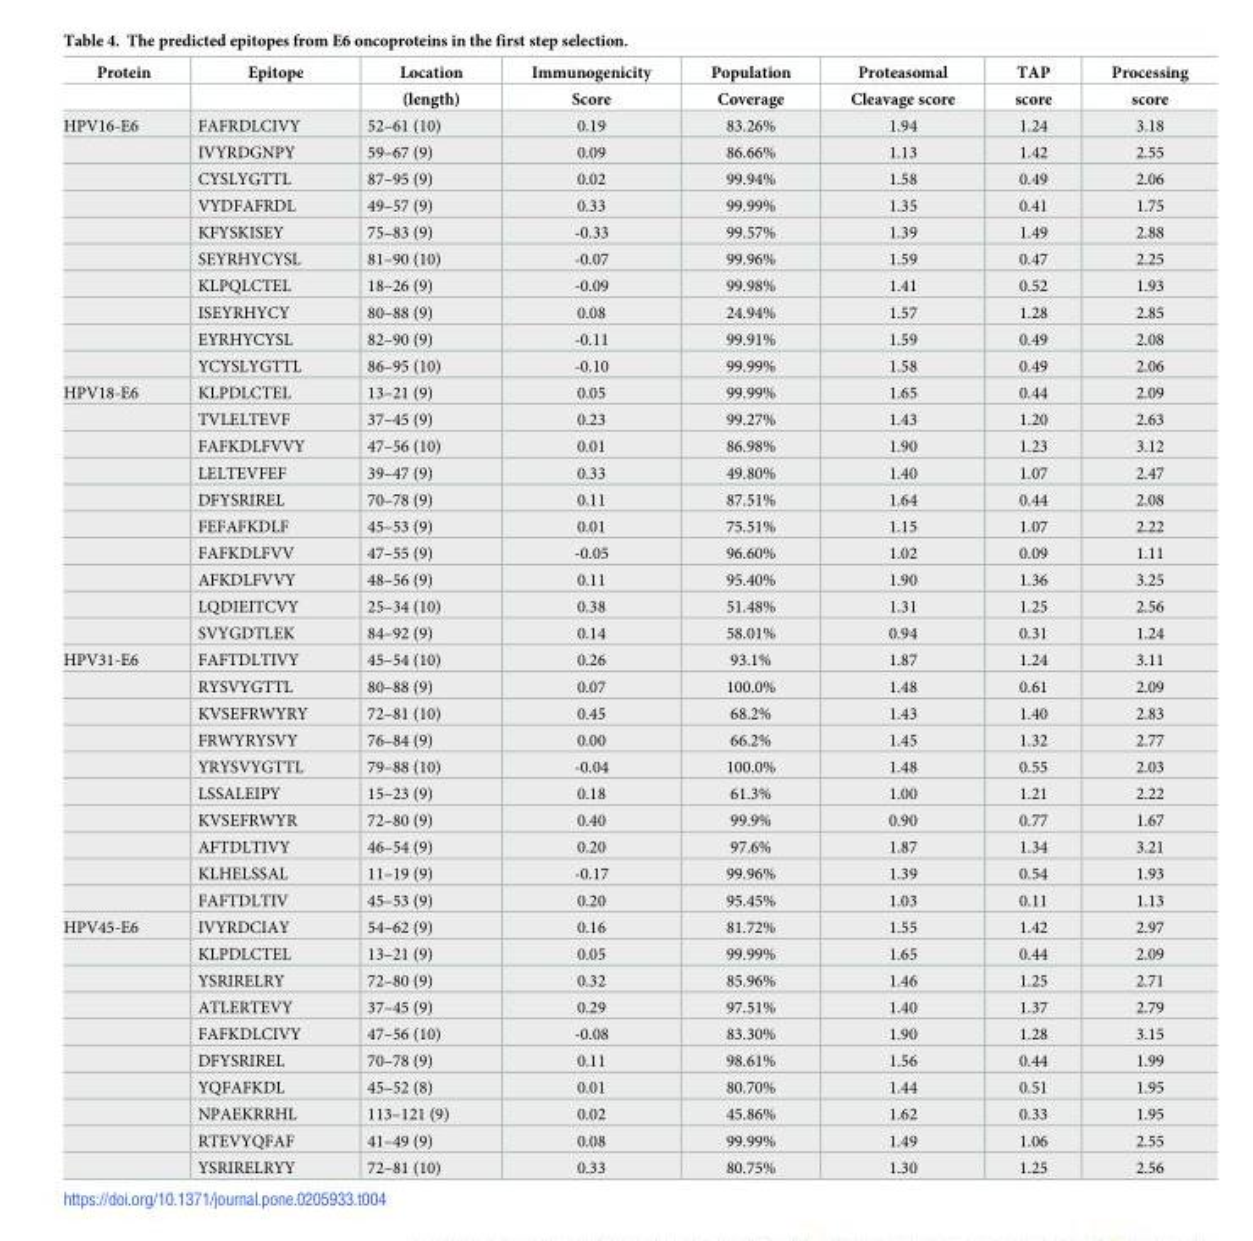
<table><thead><tr><td rowspan="2">Protein</td><td rowspan="2">Epitope</td><td rowspan="2">Location (length)</td><td rowspan="2">Immunogenicity Score</td><td rowspan="2">Population Coverage</td><td rowspan="2">Proteasomal Cleavage score</td><td rowspan="2">TAP score</td><td rowspan="2">Processing score</td></tr><tr></tr></thead><tbody><tr><td rowspan="10">HPV16-E6</td><td>FAFRDLCIVY</td><td>52–61 (10)</td><td>0.19</td><td>83.26%</td><td>1.94</td><td>1.24</td><td>3.18</td></tr><tr><td>IVYRDGNPY</td><td>59–67 (9)</td><td>0.09</td><td>86.66%</td><td>1.13</td><td>1.42</td><td>2.55</td></tr><tr><td>CYSLYGTTL</td><td>87–95 (9)</td><td>0.02</td><td>99.94%</td><td>1.58</td><td>0.49</td><td>2.06</td></tr><tr><td>VYDFAFRDL</td><td>49–57 (9)</td><td>0.33</td><td>99.99%</td><td>1.35</td><td>0.41</td><td>1.75</td></tr><tr><td>KFYSKISEY</td><td>75–83 (9)</td><td>-0.33</td><td>99.57%</td><td>1.39</td><td>1.49</td><td>2.88</td></tr><tr><td>SEYRHYCYSL</td><td>81–90 (10)</td><td>-0.07</td><td>99.96%</td><td>1.59</td><td>0.47</td><td>2.25</td></tr><tr><td>KLPQLCTEL</td><td>18–26 (9)</td><td>-0.09</td><td>99.98%</td><td>1.41</td><td>0.52</td><td>1.93</td></tr><tr><td>ISEYRHYCY</td><td>80–88 (9)</td><td>0.08</td><td>24.94%</td><td>1.57</td><td>1.28</td><td>2.85</td></tr><tr><td>EYRHYCYSL</td><td>82–90 (9)</td><td>-0.11</td><td>99.91%</td><td>1.59</td><td>0.49</td><td>2.08</td></tr><tr><td>YCYSLYGTTL</td><td>86–95 (10)</td><td>-0.10</td><td>99.99%</td><td>1.58</td><td>0.49</td><td>2.06</td></tr><tr><td rowspan="10">HPV18-E6</td><td>KLPDLCTEL</td><td>13–21 (9)</td><td>0.05</td><td>99.99%</td><td>1.65</td><td>0.44</td><td>2.09</td></tr><tr><td>TVLELTEVF</td><td>37–45 (9)</td><td>0.23</td><td>99.27%</td><td>1.43</td><td>1.20</td><td>2.63</td></tr><tr><td>FAFKDLFVVY</td><td>47–56 (10)</td><td>0.01</td><td>86.98%</td><td>1.90</td><td>1.23</td><td>3.12</td></tr><tr><td>LELTEVFEF</td><td>39–47 (9)</td><td>0.33</td><td>49.80%</td><td>1.40</td><td>1.07</td><td>2.47</td></tr><tr><td>DFYSRIREL</td><td>70–78 (9)</td><td>0.11</td><td>87.51%</td><td>1.64</td><td>0.44</td><td>2.08</td></tr><tr><td>FEFAFKDLF</td><td>45–53 (9)</td><td>0.01</td><td>75.51%</td><td>1.15</td><td>1.07</td><td>2.22</td></tr><tr><td>FAFKDLFVV</td><td>47–55 (9)</td><td>-0.05</td><td>96.60%</td><td>1.02</td><td>0.09</td><td>1.11</td></tr><tr><td>AFKDLFVVY</td><td>48–56 (9)</td><td>0.11</td><td>95.40%</td><td>1.90</td><td>1.36</td><td>3.25</td></tr><tr><td>LQDIEITCVY</td><td>25–34 (10)</td><td>0.38</td><td>51.48%</td><td>1.31</td><td>1.25</td><td>2.56</td></tr><tr><td>SVYGDTLEK</td><td>84–92 (9)</td><td>0.14</td><td>58.01%</td><td>0.94</td><td>0.31</td><td>1.24</td></tr><tr><td rowspan="10">HPV31-E6</td><td>FAFTDLTIVY</td><td>45–54 (10)</td><td>0.26</td><td>93.1%</td><td>1.87</td><td>1.24</td><td>3.11</td></tr><tr><td>RYSVYGTTL</td><td>80–88 (9)</td><td>0.07</td><td>100.0%</td><td>1.48</td><td>0.61</td><td>2.09</td></tr><tr><td>KVSEFRWYRY</td><td>72–81 (10)</td><td>0.45</td><td>68.2%</td><td>1.43</td><td>1.40</td><td>2.83</td></tr><tr><td>FRWYRYSVY</td><td>76–84 (9)</td><td>0.00</td><td>66.2%</td><td>1.45</td><td>1.32</td><td>2.77</td></tr><tr><td>YRYSVYGTTL</td><td>79–88 (10)</td><td>-0.04</td><td>100.0%</td><td>1.48</td><td>0.55</td><td>2.03</td></tr><tr><td>LSSALEIPY</td><td>15–23 (9)</td><td>0.18</td><td>61.3%</td><td>1.00</td><td>1.21</td><td>2.22</td></tr><tr><td>KVSEFRWYR</td><td>72–80 (9)</td><td>0.40</td><td>99.9%</td><td>0.90</td><td>0.77</td><td>1.67</td></tr><tr><td>AFTDLTIVY</td><td>46–54 (9)</td><td>0.20</td><td>97.6%</td><td>1.87</td><td>1.34</td><td>3.21</td></tr><tr><td>KLHELSSAL</td><td>11–19 (9)</td><td>-0.17</td><td>99.96%</td><td>1.39</td><td>0.54</td><td>1.93</td></tr><tr><td>FAFTDLTIV</td><td>45–53 (9)</td><td>0.20</td><td>95.45%</td><td>1.03</td><td>0.11</td><td>1.13</td></tr><tr><td rowspan="10">HPV45-E6</td><td>IVYRDCIAY</td><td>54–62 (9)</td><td>0.16</td><td>81.72%</td><td>1.55</td><td>1.42</td><td>2.97</td></tr><tr><td>KLPDLCTEL</td><td>13–21 (9)</td><td>0.05</td><td>99.99%</td><td>1.65</td><td>0.44</td><td>2.09</td></tr><tr><td>YSRIRELRY</td><td>72–80 (9)</td><td>0.32</td><td>85.96%</td><td>1.46</td><td>1.25</td><td>2.71</td></tr><tr><td>ATLERTEVY</td><td>37–45 (9)</td><td>0.29</td><td>97.51%</td><td>1.40</td><td>1.37</td><td>2.79</td></tr><tr><td>FAFKDLCIVY</td><td>47–56 (10)</td><td>-0.08</td><td>83.30%</td><td>1.90</td><td>1.28</td><td>3.15</td></tr><tr><td>DFYSRIREL</td><td>70–78 (9)</td><td>0.11</td><td>98.61%</td><td>1.56</td><td>0.44</td><td>1.99</td></tr><tr><td>YQFAFKDL</td><td>45–52 (8)</td><td>0.01</td><td>80.70%</td><td>1.44</td><td>0.51</td><td>1.95</td></tr><tr><td>NPAEKRRHL</td><td>113–121 (9)</td><td>0.02</td><td>45.86%</td><td>1.62</td><td>0.33</td><td>1.95</td></tr><tr><td>RTEVYQFAF</td><td>41–49 (9)</td><td>0.08</td><td>99.99%</td><td>1.49</td><td>1.06</td><td>2.55</td></tr><tr><td>YSRIRELRYY</td><td>72–81 (10)</td><td>0.33</td><td>80.75%</td><td>1.30</td><td>1.25</td><td>2.56</td></tr></tbody></table>